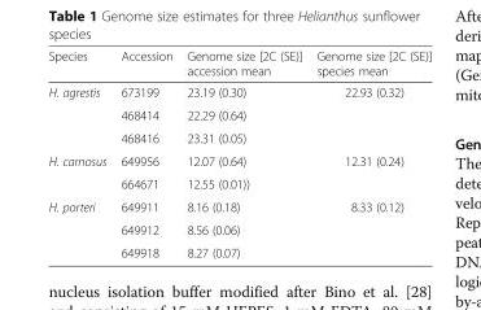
<table><thead><tr><td>Species</td><td>Accession</td><td>Genome size [2C (SE)] accession mean</td><td>Genome size [2C (SE)] species mean</td></tr></thead><tbody><tr><td rowspan="3">H. agrestis</td><td>673199</td><td>23.19 (0.30)</td><td rowspan="3">22.93 (0.32)</td></tr><tr><td>468414</td><td>22.29 (0.64)</td></tr><tr><td>468416</td><td>23.31 (0.05)</td></tr><tr><td rowspan="2">H. carnosus</td><td>649956</td><td>12.07 (0.64)</td><td rowspan="2">12.31 (0.24)</td></tr><tr><td>664671</td><td>12.55 (0.01))</td></tr><tr><td rowspan="3">H. porteri</td><td>649911</td><td>8.16 (0.18)</td><td rowspan="3">8.33 (0.12)</td></tr><tr><td>649912</td><td>8.56 (0.06)</td></tr><tr><td>649918</td><td>8.27 (0.07)</td></tr></tbody></table>